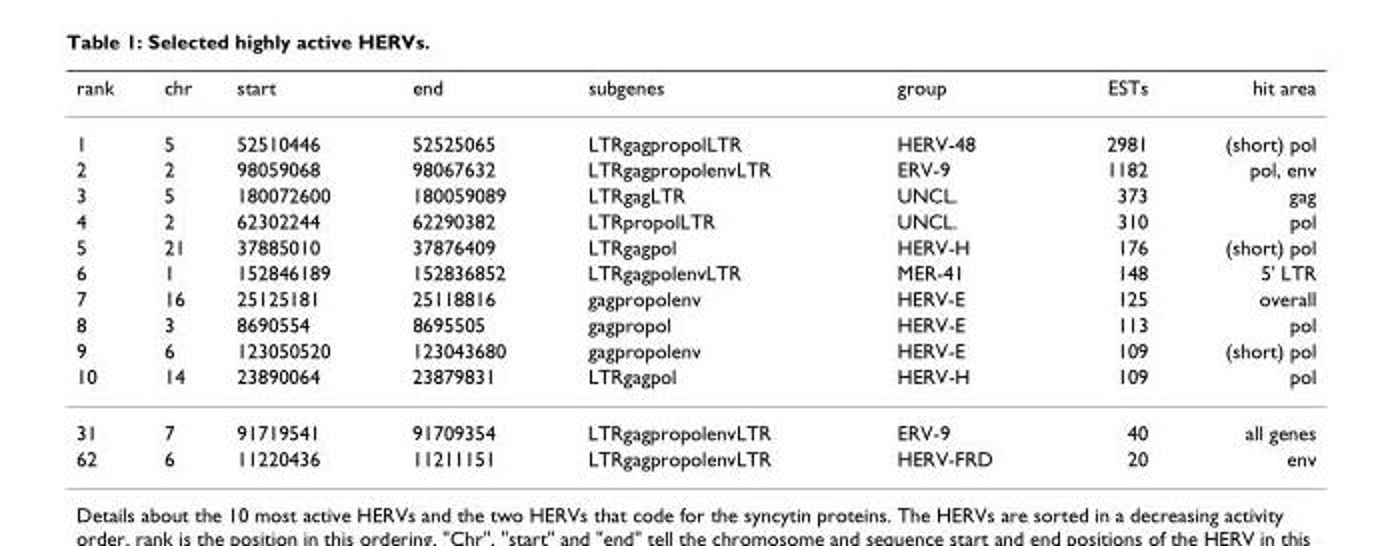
<table><thead><tr><td>rank</td><td>chr</td><td>start</td><td>end</td><td>subgenes</td><td>group</td><td>ESTs</td><td>hit area</td></tr></thead><tbody><tr><td>1</td><td>5</td><td>52510446</td><td>52525065</td><td>LTRgagpropolLTR</td><td>HERV-48</td><td>2981</td><td>(short) pol</td></tr><tr><td>2</td><td>2</td><td>98059068</td><td>98067632</td><td>LTRgagpropolenvLTR</td><td>ERV-9</td><td>1182</td><td>pol, env</td></tr><tr><td>3</td><td>5</td><td>180072600</td><td>180059089</td><td>LTRgagLTR</td><td>UNCL.</td><td>373</td><td>gag</td></tr><tr><td>4</td><td>2</td><td>62302244</td><td>62290382</td><td>LTRpropolLTR</td><td>UNCL.</td><td>310</td><td>pol</td></tr><tr><td>5</td><td>21</td><td>37885010</td><td>37876409</td><td>LTRgagpol</td><td>HERV-H</td><td>176</td><td>(short) pol</td></tr><tr><td>6</td><td>1</td><td>152846189</td><td>152836852</td><td>LTRgagpolenvLTR</td><td>MER-41</td><td>148</td><td>5&#x27; LTR</td></tr><tr><td>7</td><td>16</td><td>25125181</td><td>25118816</td><td>gagpropolenv</td><td>HERV-E</td><td>125</td><td>overall</td></tr><tr><td>8</td><td>3</td><td>8690554</td><td>8695505</td><td>gagpropol</td><td>HERV-E</td><td>113</td><td>pol</td></tr><tr><td>9</td><td>6</td><td>123050520</td><td>123043680</td><td>gagpropolenv</td><td>HERV-E</td><td>109</td><td>(short) pol</td></tr><tr><td>10</td><td>14</td><td>23890064</td><td>23879831</td><td>LTRgagpol</td><td>HERV-H</td><td>109</td><td>pol</td></tr><tr><td>31</td><td>7</td><td>91719541</td><td>91709354</td><td>LTRgagpropolenvLTR</td><td>ERV-9</td><td>40</td><td>all genes</td></tr><tr><td>62</td><td>6</td><td>11220436</td><td>11211151</td><td>LTRgagpropolenvLTR</td><td>HERV-FRD</td><td>20</td><td>env</td></tr></tbody></table>